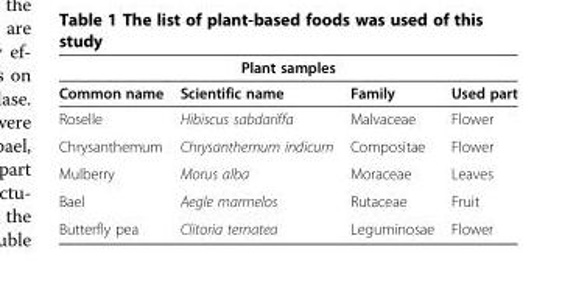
<table><thead><tr><td colspan="4">Plant samples</td></tr><tr><td>Common name</td><td>Scientific name</td><td>Family</td><td>Used part</td></tr></thead><tbody><tr><td>Roselle</td><td>Hibiscus sabdariffa</td><td>Malvaceae</td><td>Flower</td></tr><tr><td>Chrysanthemum</td><td>Chrysanthemum indicum</td><td>Compositae</td><td>Flower</td></tr><tr><td>Mulberry</td><td>Morus alba</td><td>Moraceae</td><td>Leaves</td></tr><tr><td>Bael</td><td>Aegle marmelos</td><td>Rutaceae</td><td>Fruit</td></tr><tr><td>Butterfly pea</td><td>Clitoria ternatea</td><td>Leguminosae</td><td>Flower</td></tr></tbody></table>